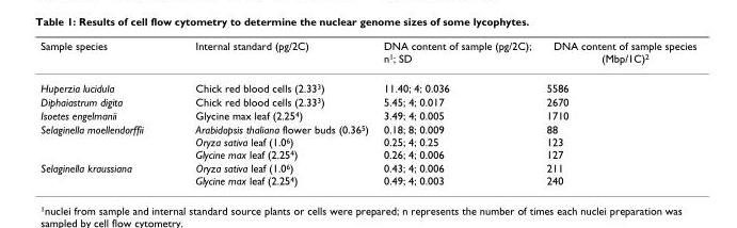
<table><thead><tr><td>Sample species</td><td>Internal standard (pg/2C)</td><td>DNA content of sample (pg/2C); n1; SD</td><td>DNA content of sample species (Mbp/1C)2</td></tr></thead><tbody><tr><td>Huperzia lucidula</td><td>Chick red blood cells (2.333)</td><td>11.40; 4; 0.036</td><td>5586</td></tr><tr><td>Diphaiastrum digita</td><td>Chick red blood cells (2.333)</td><td>5.45; 4; 0.017</td><td>2670</td></tr><tr><td>Isoetes engelmanii</td><td>Glycine max leaf (2.254)</td><td>3.49; 4; 0.005</td><td>1710</td></tr><tr><td>Selaginella moellendorffii</td><td>Arabidopsis thaliana flower buds (0.365) Oryza sativa leaf (1.06) Glycine max leaf (2.254)</td><td>0.18; 8; 0.009 0.25; 4; 0.25 0.26; 4; 0.006</td><td>88 123 127</td></tr><tr><td>Selaginella kraussiana</td><td>Oryza sativa leaf (1.06) Glycine max leaf (2.254)</td><td>0.43; 4; 0.006 0.49; 4; 0.003</td><td>211 240</td></tr></tbody></table>